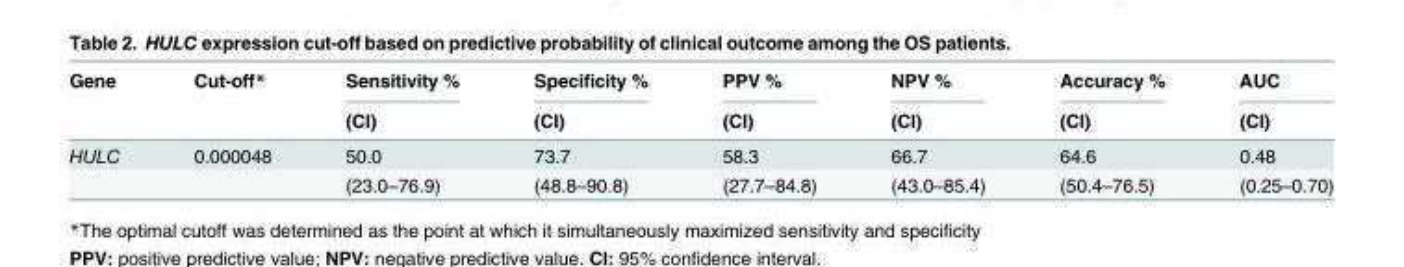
<table><thead><tr><td rowspan="2">Gene</td><td rowspan="2">Cut-off*</td><td rowspan="2">Sensitivity % (CI)</td><td rowspan="2">Specificity % (CI)</td><td rowspan="2">PPV % (CI)</td><td rowspan="2">NPV % (CI)</td><td rowspan="2">Accuracy % (CI)</td><td rowspan="2">AUC (CI)</td></tr><tr></tr></thead><tbody><tr><td rowspan="2">HULC</td><td>0.000048</td><td>50.0</td><td>73.7</td><td>58.3</td><td>66.7</td><td>64.6</td><td>0.48</td></tr><tr><td></td><td>(23.0–76.9)</td><td>(48.8–90.8)</td><td>(27.7–84.8)</td><td>(43.0–85.4)</td><td>(50.4–76.5)</td><td>(0.25–0.70)</td></tr></tbody></table>